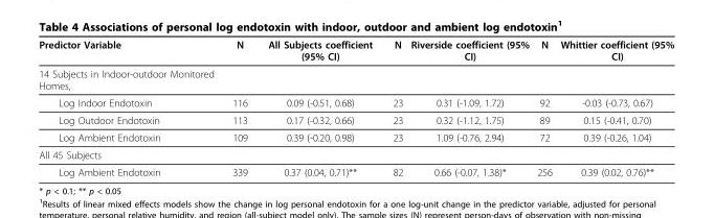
<table><thead><tr><td>Predictor Variable</td><td>N</td><td>All Subjects coefficient (95% CI)</td><td>N</td><td>Riverside coefficient (95% CI)</td><td>N</td><td>Whittier coefficient (95% CI)</td></tr></thead><tbody><tr><td colspan="7">14 Subjects in Indoor-outdoor Monitored Homes,</td></tr><tr><td>Log Indoor Endotoxin</td><td>116</td><td>0.09 (-0.51, 0.68)</td><td>23</td><td>0.31 (-1.09, 1.72)</td><td>92</td><td>-0.03 (-0.73, 0.67)</td></tr><tr><td>Log Outdoor Endotoxin</td><td>113</td><td>0.17 (-0.32, 0.66)</td><td>23</td><td>0.32 (-1.12, 1.75)</td><td>89</td><td>0.15 (-0.41, 0.70)</td></tr><tr><td>Log Ambient Endotoxin</td><td>109</td><td>0.39 (-0.20, 0.98)</td><td>23</td><td>1.09 (-0.76, 2.94)</td><td>72</td><td>0.39 (-0.26, 1.04)</td></tr><tr><td colspan="7">All 45 Subjects</td></tr><tr><td>Log Ambient Endotoxin</td><td>339</td><td>0.37 (0.04, 0.71)**</td><td>82</td><td>0.66 (-0.07, 1.38)*</td><td>256</td><td>0.39 (0.02, 0.76)**</td></tr></tbody></table>